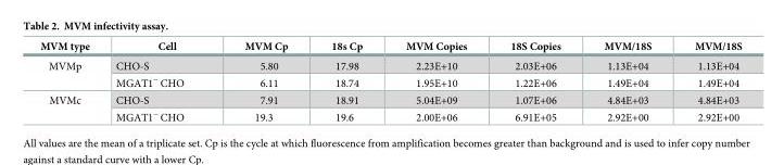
<table><thead><tr><td>MVM type</td><td>Cell</td><td>MVM Cp</td><td>18s Cp</td><td>MVM Copies</td><td>18S Copies</td><td>MVM/18S</td><td>MVM/18S</td></tr></thead><tbody><tr><td rowspan="2">MVMp</td><td>CHO-S</td><td>5.80</td><td>17.98</td><td>2.23E+10</td><td>2.03E+06</td><td>1.13E+04</td><td>1.13E+04</td></tr><tr><td>MGAT1<sup>−</sup> CHO</td><td>6.11</td><td>18.74</td><td>1.95E+10</td><td>1.22E+06</td><td>1.49E+04</td><td>1.49E+04</td></tr><tr><td rowspan="2">MVMc</td><td>CHO-S</td><td>7.91</td><td>18.91</td><td>5.04E+09</td><td>1.07E+06</td><td>4.84E+03</td><td>4.84E+03</td></tr><tr><td>MGAT1<sup>−</sup> CHO</td><td>19.3</td><td>19.6</td><td>2.00E+06</td><td>6.91E+05</td><td>2.92E+00</td><td>2.92E+00</td></tr></tbody></table>